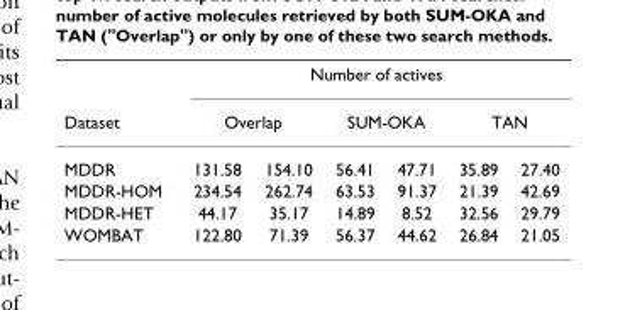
<table><thead><tr><td rowspan="3">Dataset MDDR</td><td colspan="6">Number of actives</td></tr><tr><td colspan="2">Overlap</td><td colspan="2">SUM-OKA</td><td colspan="2">TAN</td></tr><tr><td>131.58</td><td>154.10</td><td>56.41</td><td>47.71</td><td>35.89</td><td>27.40</td></tr></thead><tbody><tr><td>MDDR-HOM</td><td>234.54</td><td>262.74</td><td>63.53</td><td>91.37</td><td>21.39</td><td>42.69</td></tr><tr><td>MDDR-HET</td><td>44.17</td><td>35.17</td><td>14.89</td><td>8.52</td><td>32.56</td><td>29.79</td></tr><tr><td>WOMBAT</td><td>122.80</td><td>71.39</td><td>56.37</td><td>44.62</td><td>26.84</td><td>21.05</td></tr></tbody></table>